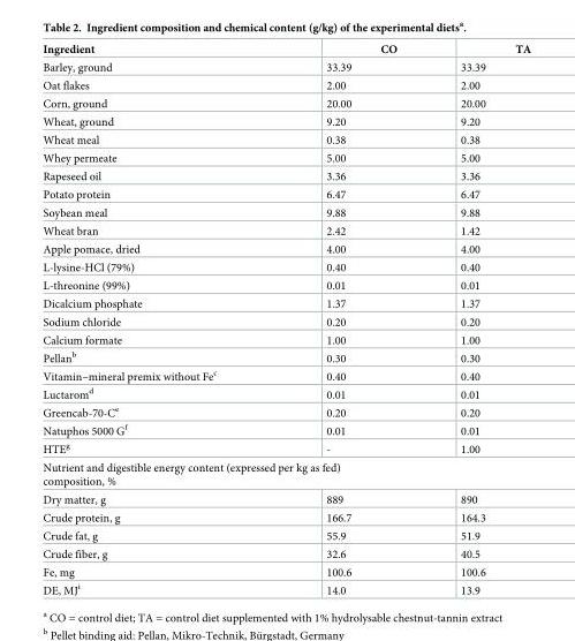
<table><thead><tr><td>Ingredient</td><td>CO</td><td>TA</td></tr></thead><tbody><tr><td>Barley, ground</td><td>33.39</td><td>33.39</td></tr><tr><td>Oat flakes</td><td>2.00</td><td>2.00</td></tr><tr><td>Corn, ground</td><td>20.00</td><td>20.00</td></tr><tr><td>Wheat, ground</td><td>9.20</td><td>9.20</td></tr><tr><td>Wheat meal</td><td>0.38</td><td>0.38</td></tr><tr><td>Whey permeate</td><td>5.00</td><td>5.00</td></tr><tr><td>Rapeseed oil</td><td>3.36</td><td>3.36</td></tr><tr><td>Potato protein</td><td>6.47</td><td>6.47</td></tr><tr><td>Soybean meal</td><td>9.88</td><td>9.88</td></tr><tr><td>Wheat bran</td><td>2.42</td><td>1.42</td></tr><tr><td>Apple pomace, dried</td><td>4.00</td><td>4.00</td></tr><tr><td>L-lysine-HCl (79%)</td><td>0.40</td><td>0.40</td></tr><tr><td>L-threonine (99%)</td><td>0.01</td><td>0.01</td></tr><tr><td>Dicalcium phosphate</td><td>1.37</td><td>1.37</td></tr><tr><td>Sodium chloride</td><td>0.20</td><td>0.20</td></tr><tr><td>Calcium formate</td><td>1.00</td><td>1.00</td></tr><tr><td>Pellan<sup>b</sup></td><td>0.30</td><td>0.30</td></tr><tr><td>Vitamin–mineral premix without Fe<sup>c</sup></td><td>0.40</td><td>0.40</td></tr><tr><td>Luctarom<sup>d</sup></td><td>0.01</td><td>0.01</td></tr><tr><td>Greencab-70-C<sup>e</sup></td><td>0.20</td><td>0.20</td></tr><tr><td>Natuphos 5000 G<sup>f</sup></td><td>0.01</td><td>0.01</td></tr><tr><td>HTE<sup>g</sup></td><td>-</td><td>1.00</td></tr><tr><td colspan="3">Nutrient and digestible energy content (expressed per kg as fed) composition, %</td></tr><tr><td>Dry matter, g</td><td>889</td><td>890</td></tr><tr><td>Crude protein, g</td><td>166.7</td><td>164.3</td></tr><tr><td>Crude fat, g</td><td>55.9</td><td>51.9</td></tr><tr><td>Crude fiber, g</td><td>32.6</td><td>40.5</td></tr><tr><td>Fe, mg</td><td>100.6</td><td>100.6</td></tr><tr><td>DE, MJ<sup>i</sup></td><td>14.0</td><td>13.9</td></tr></tbody></table>